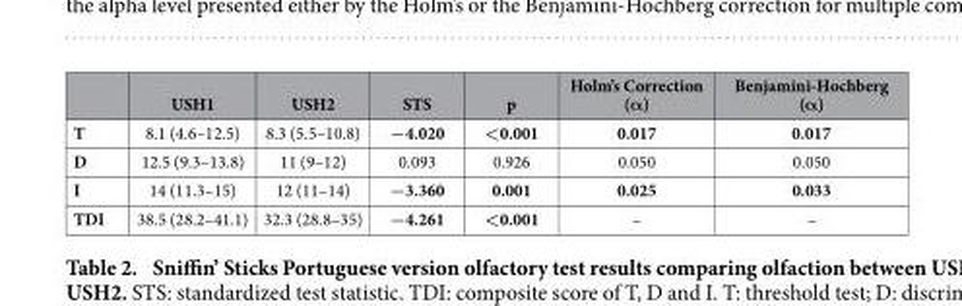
<table><thead><tr><td></td><td>USH1</td><td>USH2</td><td>STS</td><td>p</td><td>Holm’s Correction (α)</td><td>Benjamini-Hochberg (α)</td></tr></thead><tbody><tr><td>T</td><td>8.1 (4.6–12.5)</td><td>8.3 (5.5–10.8)</td><td>−4.020</td><td>&lt;0.001</td><td>0.017</td><td>0.017</td></tr><tr><td>D</td><td>12.5 (9.3–13.8)</td><td>11 (9–12)</td><td>0.093</td><td>0.926</td><td>0.050</td><td>0.050</td></tr><tr><td>I</td><td>14 (11.3–15)</td><td>12 (11–14)</td><td>−3.360</td><td>0.001</td><td>0.025</td><td>0.033</td></tr><tr><td>TDI</td><td>38.5 (28.2–41.1)</td><td>32.3 (28.8–35)</td><td>−4.261</td><td>&lt;0.001</td><td>–</td><td>–</td></tr></tbody></table>